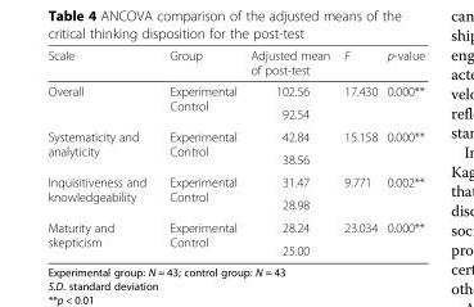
<table><thead><tr><td>Scale</td><td>Group</td><td>Adjusted mean of post-test</td><td>F</td><td>p-value</td></tr></thead><tbody><tr><td rowspan="2">Overall</td><td rowspan="2">Experimental Control</td><td>102.56</td><td rowspan="2">17.430</td><td rowspan="2">0.000**</td></tr><tr><td>92.54</td></tr><tr><td rowspan="2">Systematicity and analyticity</td><td rowspan="2">Experimental Control</td><td>42.84</td><td rowspan="2">15.158</td><td rowspan="2">0.000**</td></tr><tr><td>38.56</td></tr><tr><td rowspan="2">Inquisitiveness and knowledgeability</td><td rowspan="2">Experimental Control</td><td>31.47</td><td rowspan="2">9.771</td><td rowspan="2">0.002**</td></tr><tr><td>28.98</td></tr><tr><td rowspan="2">Maturity and skepticism</td><td rowspan="2">Experimental Control</td><td>28.24</td><td rowspan="2">23.034</td><td rowspan="2">0.000**</td></tr><tr><td>25.00</td></tr></tbody></table>